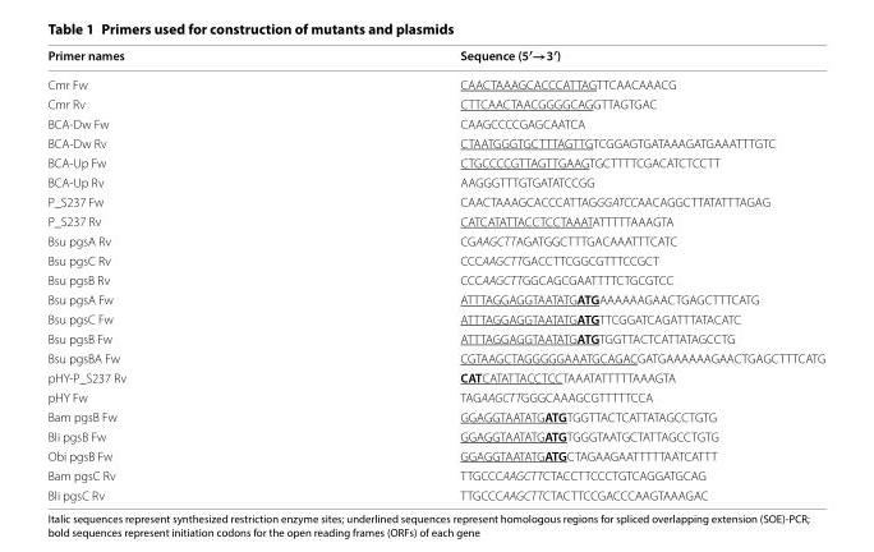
<table><thead><tr><td>Primer names</td><td>Sequence (5′→3′)</td></tr></thead><tbody><tr><td>Cmr Fw</td><td>CAA CTA AAG CAC CCA TTA GTTC AAC AAACG</td></tr><tr><td>Cmr Rv</td><td>CTT CAA CTA ACG GGG CAG GTT AGT GAC</td></tr><tr><td>BCA-Dw Fw</td><td>CAA GCC CCG AGC AATCA</td></tr><tr><td>BCA-Dw Rv</td><td>CTA ATG GGT GCT TTA GTT GTCG GAG TGA TAA AGA TGA AAT TTG TC</td></tr><tr><td>BCA-Up Fw</td><td>CTG CCC CGT TAG TTG AAG TGC TTT TCG ACA TCT CCT T</td></tr><tr><td>BCA-Up Rv</td><td>AAG GGT TTG TGA TAT CCG G</td></tr><tr><td>P_S237 Fw</td><td>CAA CTA AAG CAC CCA TTA GGGA TCC AAC AGG CTT ATA TTT AGA G</td></tr><tr><td>P_S237 Rv</td><td>CAT CAT ATT ACC TCC TAA ATATT TTT AAA GTA</td></tr><tr><td>Bsu pgsA Rv</td><td>CGAAG CTT AGA TGG CTT TGA CAA ATT TCATC</td></tr><tr><td>Bsu pgsC Rv</td><td>CCC AAG CTT GAC CTT CGG CGT TTC CGC T</td></tr><tr><td>Bsu pgsB Rv</td><td>CCC AAG CTT GGC AGC GAA TTT TCT GCG TCC</td></tr><tr><td>Bsu pgsA Fw</td><td>ATT TAG GAG GTA ATATG ATG AAA AAA GAA CTG AGC TTT CATG</td></tr><tr><td>Bsu pgsC Fw</td><td>ATT TAG GAG GTA ATATG ATG TTC GGA TCA GAT TTA TAC ATC</td></tr><tr><td>Bsu pgsB Fw</td><td>ATT TAG GAG GTA ATATG ATG TGG TTA CTC ATT ATA GCC TG</td></tr><tr><td>Bsu pgsBA Fw</td><td>CGT AAG CTA GGG GGA AAT GCA GAC GAT GAA AAA AGA ACT GAG CTT TCA TG</td></tr><tr><td>pHY-P_S237 Rv</td><td>CAT CAT ATT ACC TCC TAA ATA TTT TTA AAGTA</td></tr><tr><td>pHY Fw</td><td>TAG AAG CTT GGG CAA AGC GTT TTT CCA</td></tr><tr><td>Bam pgsB Fw</td><td>GGA GGT AAT ATG ATG TGG TTA CTC ATT ATA GCC TGTG</td></tr><tr><td>Bli pgsB Fw</td><td>GGA GGT AAT ATG ATG TGG GTA ATG CTA TTA GCC TGTG</td></tr><tr><td>Obi pgsB Fw</td><td>GGA GGT AAT ATG ATG CTA GAA GAA TTT TTA ATC ATTT</td></tr><tr><td>Bam pgsC Rv</td><td>TTG CCC AAG CTT CTA CCT TCC CTG TCA GGA TGCAG</td></tr><tr><td>Bli pgsC Rv</td><td>TTG CCC AAG CTT CTA CTT CCG ACC CAA GTA AAGAC</td></tr></tbody></table>